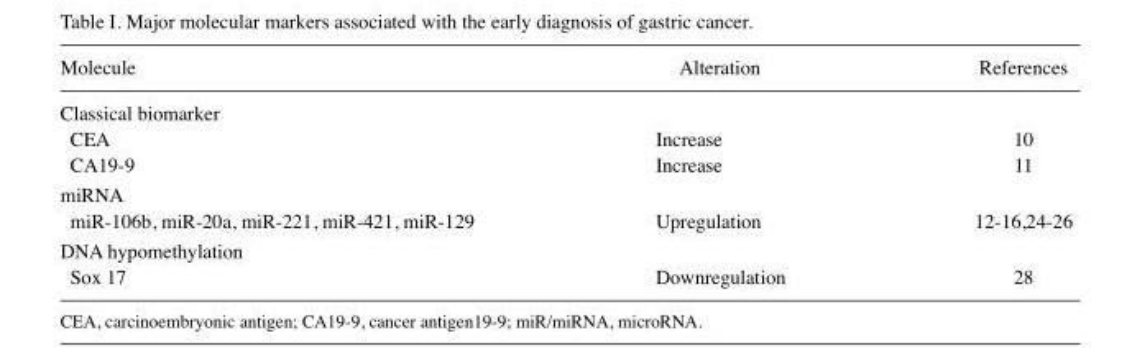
<table><thead><tr><td>Molecule</td><td>Alteration</td><td>References</td></tr></thead><tbody><tr><td colspan="3">Classical biomarker</td></tr><tr><td>CEA</td><td>Increase</td><td>10</td></tr><tr><td>CA19-9</td><td>Increase</td><td>11</td></tr><tr><td colspan="3">miRNA</td></tr><tr><td>miR-106b, miR-20a, miR-221, miR-421, miR-129</td><td>Upregulation</td><td>12-16,24-26</td></tr><tr><td colspan="3">DNA hypomethylation</td></tr><tr><td>Sox 17</td><td>Downregulation</td><td>28</td></tr></tbody></table>